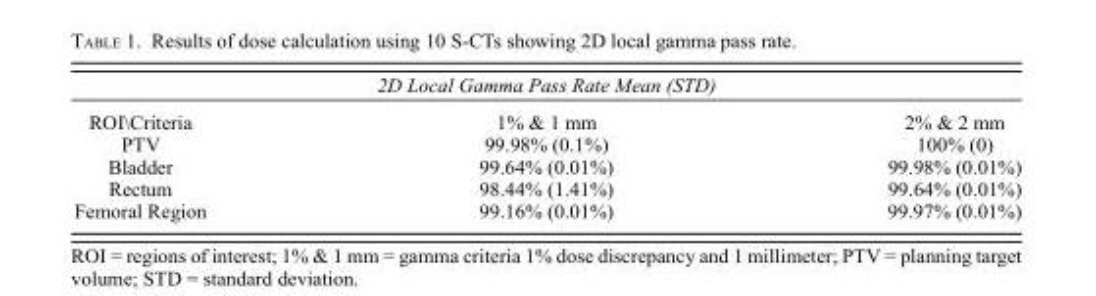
<table><thead><tr><td colspan="3">2D Local Gamma Pass Rate Mean (STD)</td></tr><tr><td>ROI\Criteria</td><td>1% &amp; 1 mm</td><td>2% &amp; 2 mm</td></tr></thead><tbody><tr><td>PTV</td><td>99.98% (0.1%)</td><td>100% (0)</td></tr><tr><td>Bladder</td><td>99.64% (0.01%)</td><td>99.98% (0.01%)</td></tr><tr><td>Rectum</td><td>98.44% (1.41%)</td><td>99.64% (0.01%)</td></tr><tr><td>Femoral Region</td><td>99.16% (0.01%)</td><td>99.97% (0.01%)</td></tr></tbody></table>